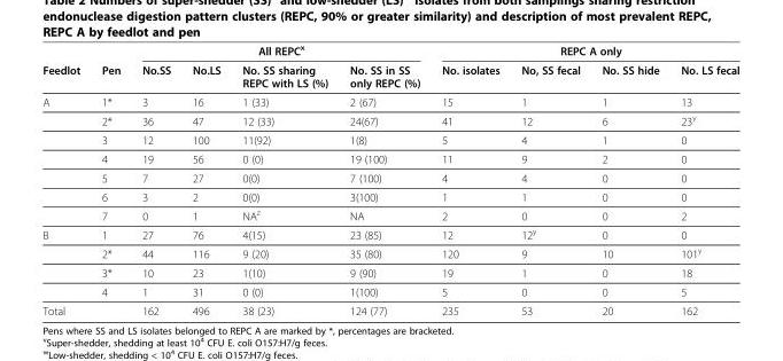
<table><thead><tr><td rowspan="2">Feedlot</td><td rowspan="2">Pen</td><td colspan="4">All REPC<sup>x</sup></td><td colspan="4">REPC A only</td></tr><tr><td>No.SS</td><td>No.LS</td><td>No. SS sharing REPC with LS (%)</td><td>No. SS in SS only REPC (%)</td><td>No. isolates</td><td>No, SS fecal</td><td>No. SS hide</td><td>No. LS fecal</td></tr></thead><tbody><tr><td rowspan="7">A</td><td>1*</td><td>3</td><td>16</td><td>1 (33)</td><td>2 (67)</td><td>15</td><td>1</td><td>1</td><td>13</td></tr><tr><td>2*</td><td>36</td><td>47</td><td>12 (33)</td><td>24(67)</td><td>41</td><td>12</td><td>6</td><td>23<sup>y</sup></td></tr><tr><td>3</td><td>12</td><td>100</td><td>11(92)</td><td>1(8)</td><td>5</td><td>4</td><td>1</td><td>0</td></tr><tr><td>4</td><td>19</td><td>56</td><td>0 (0)</td><td>19 (100)</td><td>11</td><td>9</td><td>2</td><td>0</td></tr><tr><td>5</td><td>7</td><td>27</td><td>0(0)</td><td>7 (100)</td><td>4</td><td>4</td><td>0</td><td>0</td></tr><tr><td>6</td><td>3</td><td>2</td><td>0(0)</td><td>3(100)</td><td>1</td><td>1</td><td>0</td><td>0</td></tr><tr><td>7</td><td>0</td><td>1</td><td>NA<sup>z</sup></td><td>NA</td><td>2</td><td>0</td><td>0</td><td>2</td></tr><tr><td rowspan="4">B</td><td>1</td><td>27</td><td>76</td><td>4(15)</td><td>23 (85)</td><td>12</td><td>12<sup>y</sup></td><td>0</td><td>0</td></tr><tr><td>2*</td><td>44</td><td>116</td><td>9 (20)</td><td>35 (80)</td><td>120</td><td>9</td><td>10</td><td>101<sup>y</sup></td></tr><tr><td>3*</td><td>10</td><td>23</td><td>1(10)</td><td>9 (90)</td><td>19</td><td>1</td><td>0</td><td>18</td></tr><tr><td>4</td><td>1</td><td>31</td><td>0 (0)</td><td>1(100)</td><td>5</td><td>0</td><td>0</td><td>5</td></tr><tr><td>Total</td><td></td><td>162</td><td>496</td><td>38 (23)</td><td>124 (77)</td><td>235</td><td>53</td><td>20</td><td>162</td></tr></tbody></table>